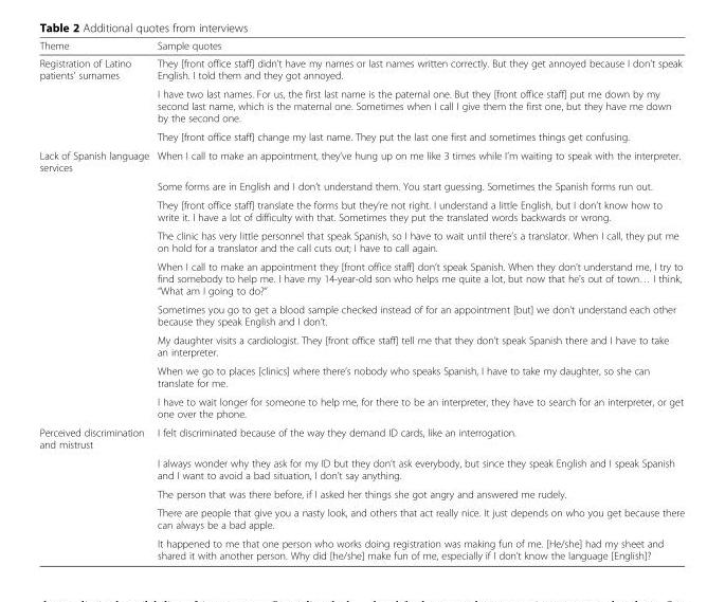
<table><thead><tr><td>Theme</td><td>Sample quotes</td></tr></thead><tbody><tr><td rowspan="3">Registration of Latino patients’ surnames</td><td>They [front office staff] didn’t have my names or last names written correctly. But they get annoyed because I don’t speak English. I told them and they got annoyed.</td></tr><tr><td>I have two last names. For us, the first last name is the paternal one. But they [front office staff] put me down by my second last name, which is the maternal one. Sometimes when I call I give them the first one, but they have me down by the second one.</td></tr><tr><td>They [front office staff] change my last name. They put the last one first and sometimes things get confusing.</td></tr><tr><td rowspan="9">Lack of Spanish language services</td><td>When I call to make an appointment, they’ve hung up on me like 3 times while I’m waiting to speak with the interpreter.</td></tr><tr><td>Some forms are in English and I don’t understand them. You start guessing. Sometimes the Spanish forms run out.</td></tr><tr><td>They [front office staff] translate the forms but they’re not right. I understand a little English, but I don’t know how to write it. I have a lot of difficulty with that. Sometimes they put the translated words backwards or wrong.</td></tr><tr><td>The clinic has very little personnel that speak Spanish, so I have to wait until there’s a translator. When I call, they put me on hold for a translator and the call cuts out; I have to call again.</td></tr><tr><td>When I call to make an appointment they [front office staff] don’t speak Spanish. When they don’t understand me, I try to find somebody to help me. I have my 14-year-old son who helps me quite a lot, but now that he’s out of town… I think, “What am I going to do?”</td></tr><tr><td>Sometimes you go to get a blood sample checked instead of for an appointment [but] we don’t understand each other because they speak English and I don’t.</td></tr><tr><td>My daughter visits a cardiologist. They [front office staff] tell me that they don’t speak Spanish there and I have to take an interpreter.</td></tr><tr><td>When we go to places [clinics] where there’s nobody who speaks Spanish, I have to take my daughter, so she can translate for me.</td></tr><tr><td>I have to wait longer for someone to help me, for there to be an interpreter, they have to search for an interpreter, or get one over the phone.</td></tr><tr><td rowspan="5">Perceived discrimination and mistrust</td><td>I felt discriminated because of the way they demand ID cards, like an interrogation.</td></tr><tr><td>I always wonder why they ask for my ID but they don’t ask everybody, but since they speak English and I speak Spanish and I want to avoid a bad situation, I don’t say anything.</td></tr><tr><td>The person that was there before, if I asked her things she got angry and answered me rudely.</td></tr><tr><td>There are people that give you a nasty look, and others that act really nice. It just depends on who you get because there can always be a bad apple.</td></tr><tr><td>It happened to me that one person who works doing registration was making fun of me. [He/she] had my sheet and shared it with another person. Why did [he/she] make fun of me, especially if I don’t know the language [English]?</td></tr></tbody></table>